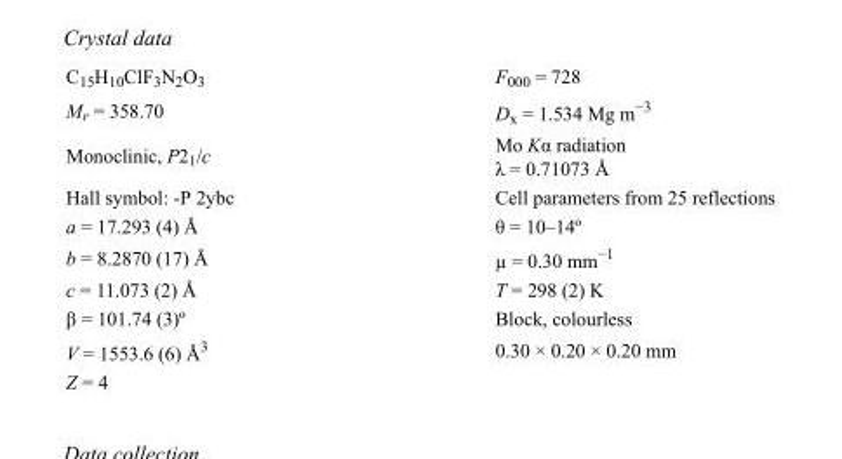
<table><tbody><tr><td>C<sub>15</sub>H<sub>10</sub>ClF<sub>3</sub>N<sub>2</sub>O<sub>3</sub></td><td>F<sub>000</sub> = 728</td></tr><tr><td>M<sub>r</sub> = 358.70</td><td>D<sub>x</sub> = 1.534 Mg m<sup>−3</sup></td></tr><tr><td>Monoclinic, P2<sub>1</sub>/c</td><td>Mo Kα radiation λ = 0.71073 Å</td></tr><tr><td>Hall symbol: -P 2ybc</td><td>Cell parameters from 25 reflections</td></tr><tr><td>a = 17.293 (4) Å</td><td>θ = 10–14º</td></tr><tr><td>b = 8.2870 (17) Å</td><td>µ = 0.30 mm<sup>−1</sup></td></tr><tr><td>c = 11.073 (2) Å</td><td>T = 298 (2) K</td></tr><tr><td>β = 101.74 (3)º</td><td>Block, colourless</td></tr><tr><td>V = 1553.6 (6) Å<sup>3</sup></td><td>0.30 × 0.20 × 0.20 mm</td></tr><tr><td>Z = 4</td><td></td></tr></tbody></table>